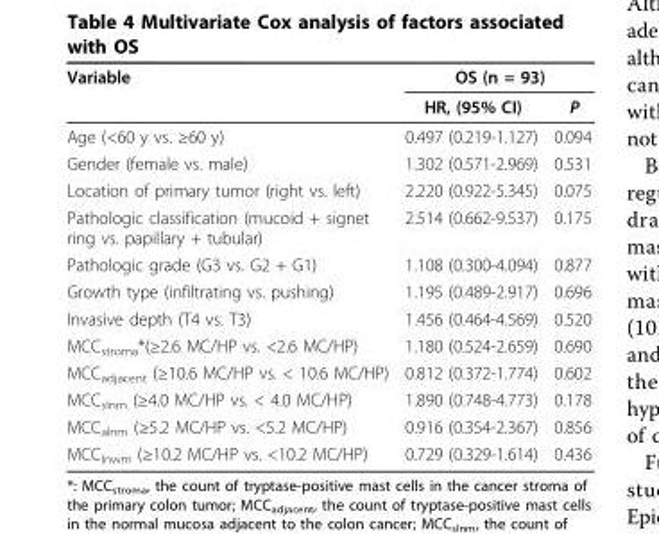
<table><thead><tr><td rowspan="2">Variable</td><td colspan="2">OS (n = 93)</td></tr><tr><td>HR, (95% CI)</td><td>P</td></tr></thead><tbody><tr><td>Age (&lt;60 y vs. ≥60 y)</td><td>0.497 (0.219-1.127)</td><td>0.094</td></tr><tr><td>Gender (female vs. male)</td><td>1.302 (0.571-2.969)</td><td>0.531</td></tr><tr><td>Location of primary tumor (right vs. left)</td><td>2.220 (0.922-5.345)</td><td>0.075</td></tr><tr><td>Pathologic classification (mucoid + signet ring vs. papillary + tubular)</td><td>2.514 (0.662-9.537)</td><td>0.175</td></tr><tr><td>Pathologic grade (G3 vs. G2 + G1)</td><td>1.108 (0.300-4.094)</td><td>0.877</td></tr><tr><td>Growth type (infiltrating vs. pushing)</td><td>1.195 (0.489-2.917)</td><td>0.696</td></tr><tr><td>Invasive depth (T4 vs. T3)</td><td>1.456 (0.464-4.569)</td><td>0.520</td></tr><tr><td>MCC<sub>stroma</sub>*(≥2.6 MC/HP vs. &lt;2.6 MC/HP)</td><td>1.180 (0.524-2.659)</td><td>0.690</td></tr><tr><td>MCC<sub>adjacent</sub> (≥10.6 MC/HP vs. &lt; 10.6 MC/HP)</td><td>0.812 (0.372-1.774)</td><td>0.602</td></tr><tr><td>MCC<sub>slnm</sub> (≥4.0 MC/HP vs. &lt; 4.0 MC/HP)</td><td>1.890 (0.748-4.773)</td><td>0.178</td></tr><tr><td>MCC<sub>alnm</sub> (≥5.2 MC/HP vs. &lt;5.2 MC/HP)</td><td>0.916 (0.354-2.367)</td><td>0.856</td></tr><tr><td>MCC<sub>lnwm</sub> (≥10.2 MC/HP vs. &lt;10.2 MC/HP)</td><td>0.729 (0.329-1.614)</td><td>0.436</td></tr></tbody></table>